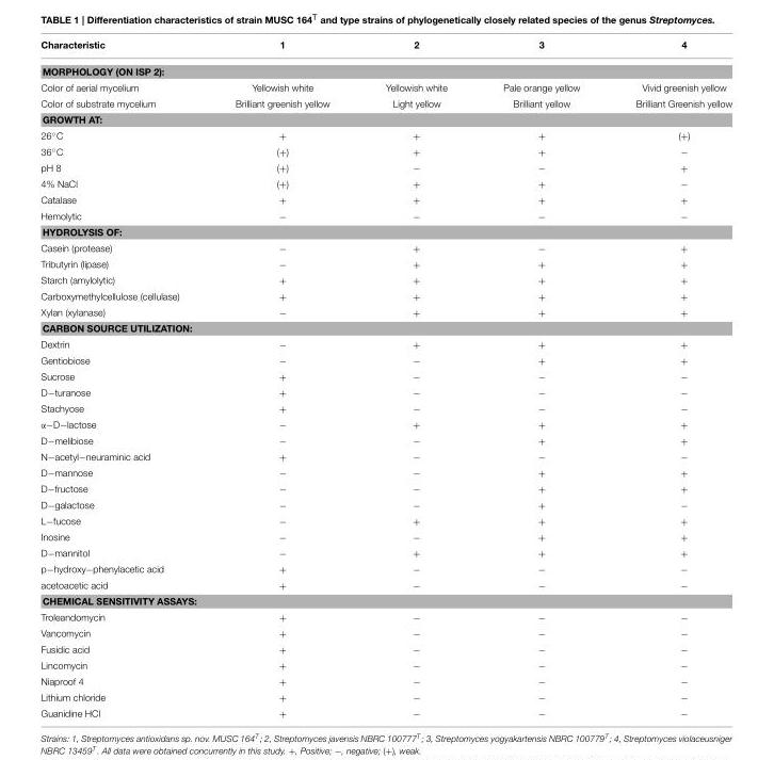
<table><thead><tr><td>Characteristic</td><td>1</td><td>2</td><td>3</td><td>4</td></tr></thead><tbody><tr><td colspan="5">MORPHOLOGY (ON ISP 2):</td></tr><tr><td>Color of aerial mycelium</td><td>Yellowish white</td><td>Yellowish white</td><td>Pale orange yellow</td><td>Vivid greenish yellow</td></tr><tr><td>Color of substrate mycelium</td><td>Brilliant greenish yellow</td><td>Light yellow</td><td>Brilliant yellow</td><td>Brilliant Greenish yellow</td></tr><tr><td colspan="5">GROWTH AT:</td></tr><tr><td>26◦C</td><td>+</td><td>+</td><td>+</td><td>(+)</td></tr><tr><td>36◦C</td><td>(+)</td><td>+</td><td>+</td><td>−</td></tr><tr><td>pH 8</td><td>(+)</td><td>−</td><td>−</td><td>+</td></tr><tr><td>4% NaCl</td><td>(+)</td><td>+</td><td>+</td><td>−</td></tr><tr><td>Catalase</td><td>+</td><td>+</td><td>+</td><td>+</td></tr><tr><td>Hemolytic</td><td>−</td><td>−</td><td>−</td><td>−</td></tr><tr><td colspan="5">HYDROLYSIS OF:</td></tr><tr><td>Casein (protease)</td><td>−</td><td>+</td><td>−</td><td>+</td></tr><tr><td>Tributyrin (lipase)</td><td>−</td><td>+</td><td>+</td><td>+</td></tr><tr><td>Starch (amylolytic)</td><td>+</td><td>+</td><td>+</td><td>+</td></tr><tr><td>Carboxymethylcellulose (cellulase)</td><td>+</td><td>+</td><td>+</td><td>+</td></tr><tr><td>Xylan (xylanase)</td><td>−</td><td>+</td><td>+</td><td>+</td></tr><tr><td colspan="5">CARBON SOURCE UTILIZATION:</td></tr><tr><td>Dextrin</td><td>−</td><td>+</td><td>+</td><td>+</td></tr><tr><td>Gentiobiose</td><td>−</td><td>−</td><td>+</td><td>+</td></tr><tr><td>Sucrose</td><td>+</td><td>−</td><td>−</td><td>−</td></tr><tr><td>D−turanose</td><td>+</td><td>−</td><td>−</td><td>−</td></tr><tr><td>Stachyose</td><td>+</td><td>−</td><td>−</td><td>−</td></tr><tr><td>α−D−lactose</td><td>−</td><td>+</td><td>+</td><td>+</td></tr><tr><td>D−melibiose</td><td>−</td><td>−</td><td>+</td><td>+</td></tr><tr><td>N−acetyl−neuraminic acid</td><td>+</td><td>−</td><td>−</td><td>−</td></tr><tr><td>D−mannose</td><td>−</td><td>−</td><td>+</td><td>+</td></tr><tr><td>D−fructose</td><td>−</td><td>−</td><td>+</td><td>+</td></tr><tr><td>D−galactose</td><td>−</td><td>−</td><td>+</td><td>−</td></tr><tr><td>L−fucose</td><td>−</td><td>+</td><td>+</td><td>+</td></tr><tr><td>Inosine</td><td>−</td><td>−</td><td>+</td><td>+</td></tr><tr><td>D−mannitol</td><td>−</td><td>+</td><td>+</td><td>+</td></tr><tr><td>p−hydroxy−phenylacetic acid</td><td>+</td><td>−</td><td>−</td><td>−</td></tr><tr><td>acetoacetic acid</td><td>+</td><td>−</td><td>−</td><td>−</td></tr><tr><td colspan="5">CHEMICAL SENSITIVITY ASSAYS:</td></tr><tr><td>Troleandomycin</td><td>+</td><td>−</td><td>−</td><td>−</td></tr><tr><td>Vancomycin</td><td>+</td><td>−</td><td>−</td><td>−</td></tr><tr><td>Fusidic acid</td><td>+</td><td>−</td><td>−</td><td>−</td></tr><tr><td>Lincomycin</td><td>+</td><td>−</td><td>−</td><td>−</td></tr><tr><td>Niaproof 4</td><td>+</td><td>−</td><td>−</td><td>−</td></tr><tr><td>Lithium chloride</td><td>+</td><td>−</td><td>−</td><td>−</td></tr><tr><td>Guanidine HCl</td><td>+</td><td>−</td><td>−</td><td>−</td></tr></tbody></table>